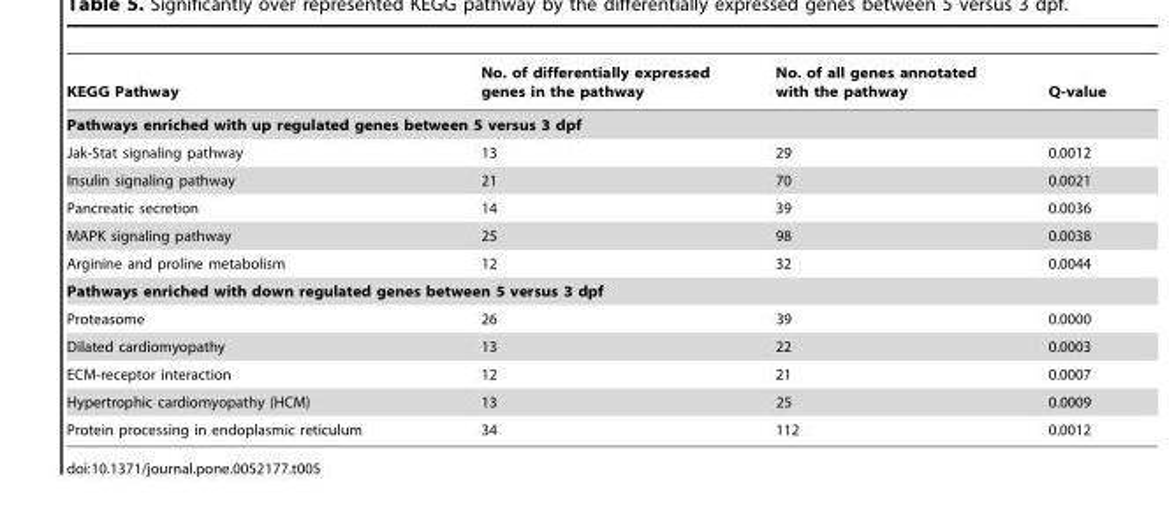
<table><thead><tr><td>KEGG Pathway</td><td>No. of differentially expressed genes in the pathway</td><td>No. of all genes annotated with the pathway</td><td>Q-value</td></tr></thead><tbody><tr><td colspan="4">Pathways enriched with up regulated genes between 5 versus 3 dpf</td></tr><tr><td>Jak-Stat signaling pathway</td><td>13</td><td>29</td><td>0.0012</td></tr><tr><td>Insulin signaling pathway</td><td>21</td><td>70</td><td>0.0021</td></tr><tr><td>Pancreatic secretion</td><td>14</td><td>39</td><td>0.0036</td></tr><tr><td>MAPK signaling pathway</td><td>25</td><td>98</td><td>0.0038</td></tr><tr><td>Arginine and proline metabolism</td><td>12</td><td>32</td><td>0.0044</td></tr><tr><td colspan="4">Pathways enriched with down regulated genes between 5 versus 3 dpf</td></tr><tr><td>Proteasome</td><td>26</td><td>39</td><td>0.0000</td></tr><tr><td>Dilated cardiomyopathy</td><td>13</td><td>22</td><td>0.0003</td></tr><tr><td>ECM-receptor interaction</td><td>12</td><td>21</td><td>0.0007</td></tr><tr><td>Hypertrophic cardiomyopathy (HCM)</td><td>13</td><td>25</td><td>0.0009</td></tr><tr><td>Protein processing in endoplasmic reticulum</td><td>34</td><td>112</td><td>0.0012</td></tr></tbody></table>